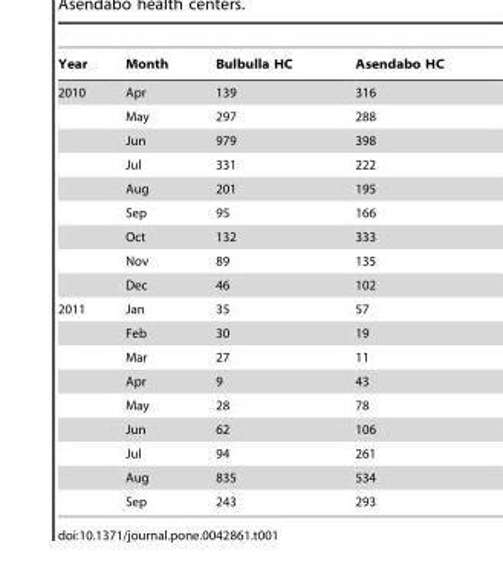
<table><thead><tr><td>Year</td><td>Month</td><td>Bulbulla HC</td><td>Asendabo HC</td></tr></thead><tbody><tr><td rowspan="9">2010</td><td>Apr</td><td>139</td><td>316</td></tr><tr><td>May</td><td>297</td><td>288</td></tr><tr><td>Jun</td><td>979</td><td>398</td></tr><tr><td>Jul</td><td>331</td><td>222</td></tr><tr><td>Aug</td><td>201</td><td>195</td></tr><tr><td>Sep</td><td>95</td><td>166</td></tr><tr><td>Oct</td><td>132</td><td>333</td></tr><tr><td>Nov</td><td>89</td><td>135</td></tr><tr><td>Dec</td><td>46</td><td>102</td></tr><tr><td rowspan="9">2011</td><td>Jan</td><td>35</td><td>57</td></tr><tr><td>Feb</td><td>30</td><td>19</td></tr><tr><td>Mar</td><td>27</td><td>11</td></tr><tr><td>Apr</td><td>9</td><td>43</td></tr><tr><td>May</td><td>28</td><td>78</td></tr><tr><td>Jun</td><td>62</td><td>106</td></tr><tr><td>Jul</td><td>94</td><td>261</td></tr><tr><td>Aug</td><td>835</td><td>534</td></tr><tr><td>Sep</td><td>243</td><td>293</td></tr></tbody></table>